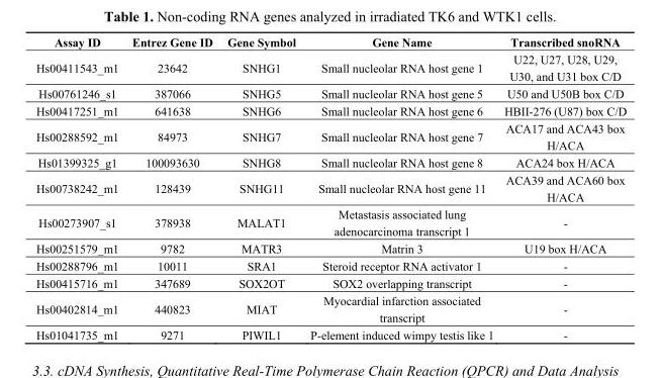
<table><thead><tr><td>Assay ID</td><td>Entrez Gene ID</td><td>Gene Symbol</td><td>Gene Name</td><td>Transcribed snoRNA</td></tr></thead><tbody><tr><td>Hs00411543_m1</td><td>23642</td><td>SNHG1</td><td>Small nucleolar RNA host gene 1</td><td>U22, U27, U28, U29, U30, and U31 box C/D</td></tr><tr><td>Hs00761246_s1</td><td>387066</td><td>SNHG5</td><td>Small nucleolar RNA host gene 5</td><td>U50 and U50B box C/D</td></tr><tr><td>Hs00417251_m1</td><td>641638</td><td>SNHG6</td><td>Small nucleolar RNA host gene 6</td><td>HBII-276 (U87) box C/D</td></tr><tr><td>Hs00288592_m1</td><td>84973</td><td>SNHG7</td><td>Small nucleolar RNA host gene 7</td><td>ACA17 and ACA43 box H/ACA</td></tr><tr><td>Hs01399325_g1</td><td>100093630</td><td>SNHG8</td><td>Small nucleolar RNA host gene 8</td><td>ACA24 box H/ACA</td></tr><tr><td>Hs00738242_m1</td><td>128439</td><td>SNHG11</td><td>Small nucleolar RNA host gene 11</td><td>ACA39 and ACA60 box H/ACA</td></tr><tr><td>Hs00273907_s1</td><td>378938</td><td>MALAT1</td><td>Metastasis associated lung adenocarcinoma transcript 1</td><td>-</td></tr><tr><td>Hs00251579_m1</td><td>9782</td><td>MATR3</td><td>Matrin 3</td><td>U19 box H/ACA</td></tr><tr><td>Hs00288796_m1</td><td>10011</td><td>SRA1</td><td>Steroid receptor RNA activator 1</td><td>-</td></tr><tr><td>Hs00415716_m1</td><td>347689</td><td>SOX2OT</td><td>SOX2 overlapping transcript</td><td>-</td></tr><tr><td>Hs00402814_m1</td><td>440823</td><td>MIAT</td><td>Myocardial infarction associated transcript</td><td>-</td></tr><tr><td>Hs01041735_m1</td><td>9271</td><td>PIWIL1</td><td>P-element induced wimpy testis like 1</td><td>-</td></tr></tbody></table>